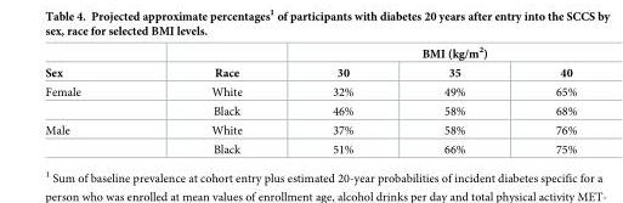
<table><thead><tr><td rowspan="2">Sex</td><td rowspan="2">Race</td><td colspan="3">BMI (kg/m<sup>2</sup>)</td></tr><tr><td>30</td><td>35</td><td>40</td></tr></thead><tbody><tr><td rowspan="2">Female</td><td>White</td><td>32%</td><td>49%</td><td>65%</td></tr><tr><td>Black</td><td>46%</td><td>58%</td><td>68%</td></tr><tr><td rowspan="2">Male</td><td>White</td><td>37%</td><td>58%</td><td>76%</td></tr><tr><td>Black</td><td>51%</td><td>66%</td><td>75%</td></tr></tbody></table>